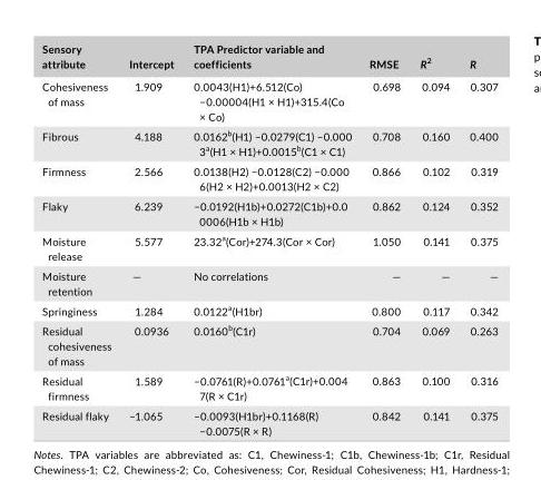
<table><thead><tr><td>Sensory attribute</td><td>Intercept</td><td>TPA Predictor variable and coefficients</td><td>RMSE</td><td>R<sup>2</sup></td><td>R</td></tr></thead><tbody><tr><td>Cohesiveness of mass</td><td>1.909</td><td>0.0043(H1)+6.512(Co) −0.00004(H1 × H1)+315.4(Co × Co)</td><td>0.698</td><td>0.094</td><td>0.307</td></tr><tr><td>Fibrous</td><td>4.188</td><td>0.0162<sup>b</sup>(H1) −0.0279(C1) −0.000 3<sup>a</sup>(H1 × H1)+0.0015<sup>b</sup>(C1 × C1)</td><td>0.708</td><td>0.160</td><td>0.400</td></tr><tr><td>Firmness</td><td>2.566</td><td>0.0138(H2) −0.0128(C2) −0.000 6(H2 × H2)+0.0013(H2 × C2)</td><td>0.866</td><td>0.102</td><td>0.319</td></tr><tr><td>Flaky</td><td>6.239</td><td>−0.0192(H1b)+0.0272(C1b)+0.0 0006(H1b × H1b)</td><td>0.862</td><td>0.124</td><td>0.352</td></tr><tr><td>Moisture release</td><td>5.577</td><td>23.32<sup>a</sup>(Cor)+274.3(Cor × Cor)</td><td>1.050</td><td>0.141</td><td>0.375</td></tr><tr><td>Moisture retention</td><td>—</td><td>No correlations</td><td>—</td><td>—</td><td>—</td></tr><tr><td>Springiness</td><td>1.284</td><td>0.0122<sup>a</sup>(H1br)</td><td>0.800</td><td>0.117</td><td>0.342</td></tr><tr><td>Residual cohesiveness of mass</td><td>0.0936</td><td>0.0160<sup>b</sup>(C1r)</td><td>0.704</td><td>0.069</td><td>0.263</td></tr><tr><td>Residual firmness</td><td>1.589</td><td>−0.0761(R)+0.0761<sup>a</sup>(C1r)+0.004 7(R × C1r)</td><td>0.863</td><td>0.100</td><td>0.316</td></tr><tr><td>Residual flaky</td><td>−1.065</td><td>−0.0093(H1br)+0.1168(R) −0.0075(R × R)</td><td>0.842</td><td>0.141</td><td>0.375</td></tr></tbody></table>